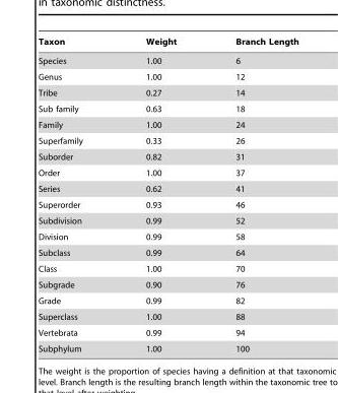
<table><thead><tr><td>Taxon</td><td>Weight</td><td>Branch Length</td></tr></thead><tbody><tr><td>Species</td><td>1.00</td><td>6</td></tr><tr><td>Genus</td><td>1.00</td><td>12</td></tr><tr><td>Tribe</td><td>0.27</td><td>14</td></tr><tr><td>Sub family</td><td>0.63</td><td>18</td></tr><tr><td>Family</td><td>1.00</td><td>24</td></tr><tr><td>Superfamily</td><td>0.33</td><td>26</td></tr><tr><td>Suborder</td><td>0.82</td><td>31</td></tr><tr><td>Order</td><td>1.00</td><td>37</td></tr><tr><td>Series</td><td>0.62</td><td>41</td></tr><tr><td>Superorder</td><td>0.93</td><td>46</td></tr><tr><td>Subdivision</td><td>0.99</td><td>52</td></tr><tr><td>Division</td><td>0.99</td><td>58</td></tr><tr><td>Subclass</td><td>0.99</td><td>64</td></tr><tr><td>Class</td><td>1.00</td><td>70</td></tr><tr><td>Subgrade</td><td>0.90</td><td>76</td></tr><tr><td>Grade</td><td>0.99</td><td>82</td></tr><tr><td>Superclass</td><td>1.00</td><td>88</td></tr><tr><td>Vertebrata</td><td>0.99</td><td>94</td></tr><tr><td>Subphylum</td><td>1.00</td><td>100</td></tr></tbody></table>